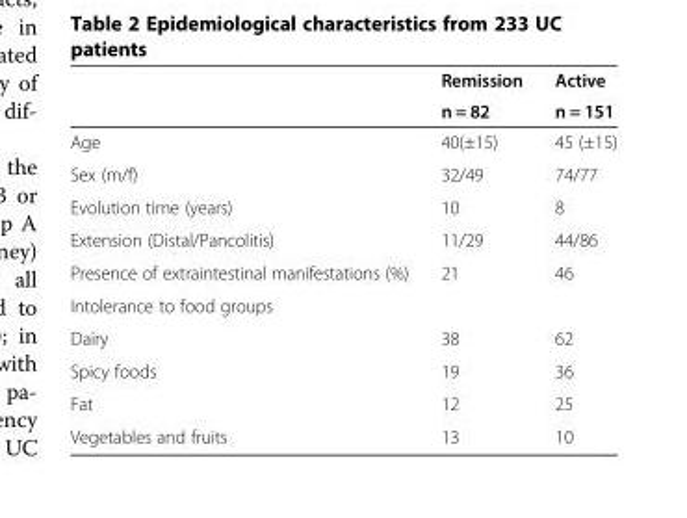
<table><thead><tr><td rowspan="2"></td><td rowspan="2">Remission n = 82</td><td rowspan="2">Active n = 151</td></tr><tr></tr></thead><tbody><tr><td>Age</td><td>40(±15)</td><td>45 (±15)</td></tr><tr><td>Sex (m/f)</td><td>32/49</td><td>74/77</td></tr><tr><td>Evolution time (years)</td><td>10</td><td>8</td></tr><tr><td>Extension (Distal/Pancolitis)</td><td>11/29</td><td>44/86</td></tr><tr><td>Presence of extraintestinal manifestations (%)</td><td>21</td><td>46</td></tr><tr><td colspan="3">Intolerance to food groups</td></tr><tr><td>Dairy</td><td>38</td><td>62</td></tr><tr><td>Spicy foods</td><td>19</td><td>36</td></tr><tr><td>Fat</td><td>12</td><td>25</td></tr><tr><td>Vegetables and fruits</td><td>13</td><td>10</td></tr></tbody></table>